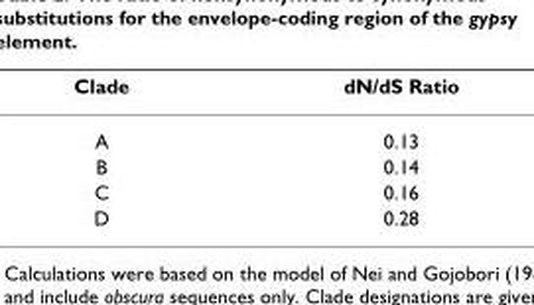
<table><thead><tr><td>Clade</td><td>dN/dS Ratio</td></tr></thead><tbody><tr><td>A</td><td>0.13</td></tr><tr><td>B</td><td>0.14</td></tr><tr><td>C</td><td>0.16</td></tr><tr><td>D</td><td>0.28</td></tr></tbody></table>